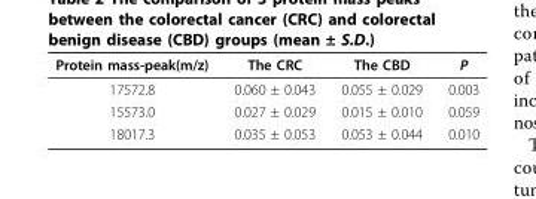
<table><thead><tr><td>Protein mass-peak(m/z)</td><td>The CRC</td><td>The CBD</td><td>P</td></tr></thead><tbody><tr><td>17572.8</td><td>0.060 ± 0.043</td><td>0.055 ± 0.029</td><td>0.003</td></tr><tr><td>15573.0</td><td>0.027 ± 0.029</td><td>0.015 ± 0.010</td><td>0.059</td></tr><tr><td>18017.3</td><td>0.035 ± 0.053</td><td>0.053 ± 0.044</td><td>0.010</td></tr></tbody></table>